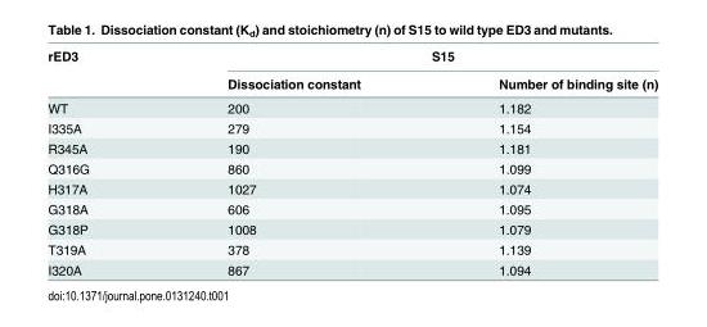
<table><thead><tr><td rowspan="2">rED3</td><td colspan="2">S15</td></tr><tr><td>Dissociation constant</td><td>Number of binding site (n)</td></tr></thead><tbody><tr><td>WT</td><td>200</td><td>1.182</td></tr><tr><td>I335A</td><td>279</td><td>1.154</td></tr><tr><td>R345A</td><td>190</td><td>1.181</td></tr><tr><td>Q316G</td><td>860</td><td>1.099</td></tr><tr><td>H317A</td><td>1027</td><td>1.074</td></tr><tr><td>G318A</td><td>606</td><td>1.095</td></tr><tr><td>G318P</td><td>1008</td><td>1.079</td></tr><tr><td>T319A</td><td>378</td><td>1.139</td></tr><tr><td>I320A</td><td>867</td><td>1.094</td></tr></tbody></table>